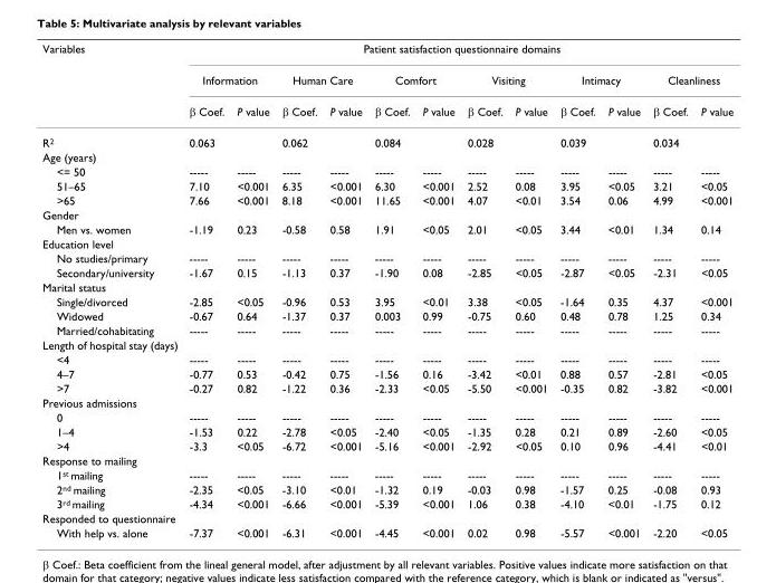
<table><thead><tr><td rowspan="3">Variables</td><td colspan="12">Patient satisfaction questionnaire domains</td></tr><tr><td colspan="2">Information</td><td colspan="2">Human Care</td><td colspan="2">Comfort</td><td colspan="2">Visiting</td><td colspan="2">Intimacy</td><td colspan="2">Cleanliness</td></tr><tr><td>β Coef.</td><td>P value</td><td>β Coef.</td><td>P value</td><td>β Coef.</td><td>P value</td><td>β Coef.</td><td>P value</td><td>β Coef.</td><td>P value</td><td>β Coef.</td><td>P value</td></tr></thead><tbody><tr><td>R2</td><td>0.063</td><td></td><td>0.062</td><td></td><td>0.084</td><td></td><td>0.028</td><td></td><td>0.039</td><td></td><td>0.034</td><td></td></tr><tr><td colspan="13">Age (years)</td></tr><tr><td>&lt;= 50</td><td>-----</td><td>-----</td><td>-----</td><td>-----</td><td>-----</td><td>-----</td><td>-----</td><td>-----</td><td>-----</td><td>-----</td><td>-----</td><td>-----</td></tr><tr><td>51–65</td><td>7.10</td><td>&lt;0.001</td><td>6.35</td><td>&lt;0.001</td><td>6.30</td><td>&lt;0.001</td><td>2.52</td><td>0.08</td><td>3.95</td><td>&lt;0.05</td><td>3.21</td><td>&lt;0.05</td></tr><tr><td>&gt;65</td><td>7.66</td><td>&lt;0.001</td><td>8.18</td><td>&lt;0.001</td><td>11.65</td><td>&lt;0.001</td><td>4.07</td><td>&lt;0.01</td><td>3.54</td><td>0.06</td><td>4.99</td><td>&lt;0.001</td></tr><tr><td colspan="13">Gender</td></tr><tr><td>Men vs. women</td><td>-1.19</td><td>0.23</td><td>-0.58</td><td>0.58</td><td>1.91</td><td>&lt;0.05</td><td>2.01</td><td>&lt;0.05</td><td>3.44</td><td>&lt;0.01</td><td>1.34</td><td>0.14</td></tr><tr><td colspan="13">Education level</td></tr><tr><td>No studies/primary</td><td>-----</td><td>-----</td><td>-----</td><td>-----</td><td>-----</td><td>-----</td><td>-----</td><td>-----</td><td>-----</td><td>-----</td><td>-----</td><td>-----</td></tr><tr><td>Secondary/university</td><td>-1.67</td><td>0.15</td><td>-1.13</td><td>0.37</td><td>-1.90</td><td>0.08</td><td>-2.85</td><td>&lt;0.05</td><td>-2.87</td><td>&lt;0.05</td><td>-2.31</td><td>&lt;0.05</td></tr><tr><td colspan="13">Marital status</td></tr><tr><td>Single/divorced</td><td>-2.85</td><td>&lt;0.05</td><td>-0.96</td><td>0.53</td><td>3.95</td><td>&lt;0.01</td><td>3.38</td><td>&lt;0.05</td><td>-1.64</td><td>0.35</td><td>4.37</td><td>&lt;0.001</td></tr><tr><td>Widowed</td><td>-0.67</td><td>0.64</td><td>-1.37</td><td>0.37</td><td>0.003</td><td>0.99</td><td>-0.75</td><td>0.60</td><td>0.48</td><td>0.78</td><td>1.25</td><td>0.34</td></tr><tr><td>Married/cohabitating</td><td>-----</td><td>-----</td><td>-----</td><td>-----</td><td>-----</td><td>-----</td><td>-----</td><td>-----</td><td>-----</td><td>-----</td><td>-----</td><td>-----</td></tr><tr><td colspan="13">Length of hospital stay (days)</td></tr><tr><td>&lt;4</td><td>-----</td><td>-----</td><td>-----</td><td>-----</td><td>-----</td><td>-----</td><td>-----</td><td>-----</td><td>-----</td><td>-----</td><td>-----</td><td>-----</td></tr><tr><td>4–7</td><td>-0.77</td><td>0.53</td><td>-0.42</td><td>0.75</td><td>-1.56</td><td>0.16</td><td>-3.42</td><td>&lt;0.01</td><td>0.88</td><td>0.57</td><td>-2.81</td><td>&lt;0.05</td></tr><tr><td>&gt;7</td><td>-0.27</td><td>0.82</td><td>-1.22</td><td>0.36</td><td>-2.33</td><td>&lt;0.05</td><td>-5.50</td><td>&lt;0.001</td><td>-0.35</td><td>0.82</td><td>-3.82</td><td>&lt;0.001</td></tr><tr><td colspan="13">Previous admissions</td></tr><tr><td>0</td><td>-----</td><td>-----</td><td>-----</td><td>-----</td><td>-----</td><td>-----</td><td>-----</td><td>-----</td><td>-----</td><td>-----</td><td>-----</td><td>-----</td></tr><tr><td>1–4</td><td>-1.53</td><td>0.22</td><td>-2.78</td><td>&lt;0.05</td><td>-2.40</td><td>&lt;0.05</td><td>-1.35</td><td>0.28</td><td>0.21</td><td>0.89</td><td>-2.60</td><td>&lt;0.05</td></tr><tr><td>&gt;4</td><td>-3.3</td><td>&lt;0.05</td><td>-6.72</td><td>&lt;0.001</td><td>-5.16</td><td>&lt;0.001</td><td>-2.92</td><td>&lt;0.05</td><td>0.10</td><td>0.96</td><td>-4.41</td><td>&lt;0.01</td></tr><tr><td colspan="13">Response to mailing</td></tr><tr><td>1st mailing</td><td>-----</td><td>-----</td><td>-----</td><td>-----</td><td>-----</td><td>-----</td><td>-----</td><td>-----</td><td>-----</td><td>-----</td><td>-----</td><td>-----</td></tr><tr><td>2nd mailing</td><td>-2.35</td><td>&lt;0.05</td><td>-3.10</td><td>&lt;0.01</td><td>-1.32</td><td>0.19</td><td>-0.03</td><td>0.98</td><td>-1.57</td><td>0.25</td><td>-0.08</td><td>0.93</td></tr><tr><td>3rd mailing</td><td>-4.34</td><td>&lt;0.001</td><td>-6.66</td><td>&lt;0.001</td><td>-5.39</td><td>&lt;0.001</td><td>1.06</td><td>0.38</td><td>-4.10</td><td>&lt;0.01</td><td>-1.75</td><td>0.12</td></tr><tr><td colspan="13">Responded to questionnaire</td></tr><tr><td>With help vs. alone</td><td>-7.37</td><td>&lt;0.001</td><td>-6.31</td><td>&lt;0.001</td><td>-4.45</td><td>&lt;0.001</td><td>0.02</td><td>0.98</td><td>-5.57</td><td>&lt;0.001</td><td>-2.20</td><td>&lt;0.05</td></tr></tbody></table>